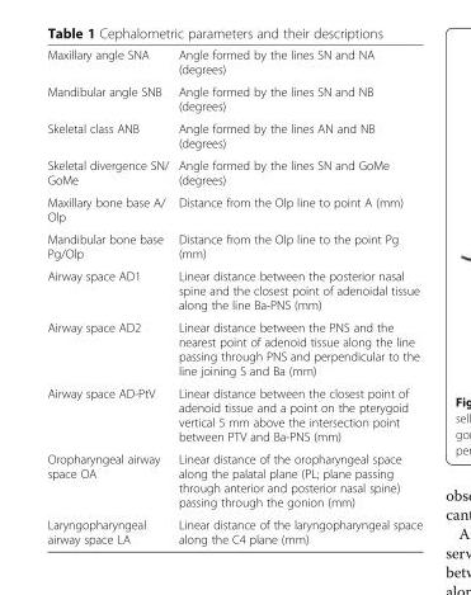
<table><tbody><tr><td>Maxillary angle SNA</td><td>Angle formed by the lines SN and NA (degrees)</td></tr><tr><td>Mandibular angle SNB</td><td>Angle formed by the lines SN and NB (degrees)</td></tr><tr><td>Skeletal class ANB</td><td>Angle formed by the lines AN and NB (degrees)</td></tr><tr><td>Skeletal divergence SN/ GoMe</td><td>Angle formed by the lines SN and GoMe (degrees)</td></tr><tr><td>Maxillary bone base A/ Olp</td><td>Distance from the Olp line to point A (mm)</td></tr><tr><td>Mandibular bone base Pg/Olp</td><td>Distance from the Olp line to the point Pg (mm)</td></tr><tr><td>Airway space AD1</td><td>Linear distance between the posterior nasal spine and the closest point of adenoidal tissue along the line Ba-PNS (mm)</td></tr><tr><td>Airway space AD2</td><td>Linear distance between the PNS and the nearest point of adenoid tissue along the line passing through PNS and perpendicular to the line joining S and Ba (mm)</td></tr><tr><td>Airway space AD-PtV</td><td>Linear distance between the closest point of adenoid tissue and a point on the pterygoid vertical 5 mm above the intersection point between PTV and Ba-PNS (mm)</td></tr><tr><td>Oropharyngeal airway space OA</td><td>Linear distance of the oropharyngeal space along the palatal plane (PL; plane passing through anterior and posterior nasal spine) passing through the gonion (mm)</td></tr><tr><td>Laryngopharyngeal airway space LA</td><td>Linear distance of the laryngopharyngeal space along the C4 plane (mm)</td></tr></tbody></table>